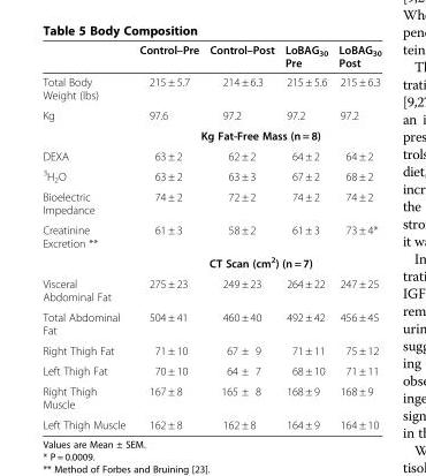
<table><thead><tr><td></td><td>Control–Pre</td><td>Control–Post</td><td>LoBAG<sub>30</sub> Pre</td><td>LoBAG<sub>30</sub> Post</td></tr></thead><tbody><tr><td>Total Body Weight (lbs)</td><td>215 ± 5.7</td><td>214 ± 6.3</td><td>215 ± 5.6</td><td>215 ± 6.3</td></tr><tr><td rowspan="2">Kg</td><td>97.6</td><td>97.2</td><td>97.2</td><td>97.2</td></tr><tr><td colspan="4">Kg Fat-Free Mass (n = 8)</td></tr><tr><td>DEXA</td><td>63 ± 2</td><td>62 ± 2</td><td>64 ± 2</td><td>64 ± 2</td></tr><tr><td><sup>3</sup>H<sub>2</sub>O</td><td>63 ± 2</td><td>63 ± 3</td><td>67 ± 2</td><td>68 ± 2</td></tr><tr><td>Bioelectric Impedance</td><td>74 ± 2</td><td>72 ± 2</td><td>74 ± 2</td><td>74 ± 2</td></tr><tr><td rowspan="2">Creatinine Excretion **</td><td>61 ± 3</td><td>58 ± 2</td><td>61 ± 3</td><td>73 ± 4*</td></tr><tr><td colspan="4">CT Scan (cm<sup>2</sup>) (n = 7)</td></tr><tr><td>Visceral Abdominal Fat</td><td>275 ± 23</td><td>249 ± 23</td><td>264 ± 22</td><td>247 ± 25</td></tr><tr><td>Total Abdominal Fat</td><td>504 ± 41</td><td>460 ± 40</td><td>492 ± 42</td><td>456 ± 45</td></tr><tr><td>Right Thigh Fat</td><td>71 ± 10</td><td>67 ± 9</td><td>71 ± 11</td><td>75 ± 12</td></tr><tr><td>Left Thigh Fat</td><td>70 ± 10</td><td>64 ± 7</td><td>68 ± 10</td><td>71 ± 11</td></tr><tr><td>Right Thigh Muscle</td><td>167 ± 8</td><td>165 ± 8</td><td>168 ± 9</td><td>168 ± 9</td></tr><tr><td>Left Thigh Muscle</td><td>162 ± 8</td><td>162 ± 8</td><td>164 ± 9</td><td>164 ± 10</td></tr></tbody></table>